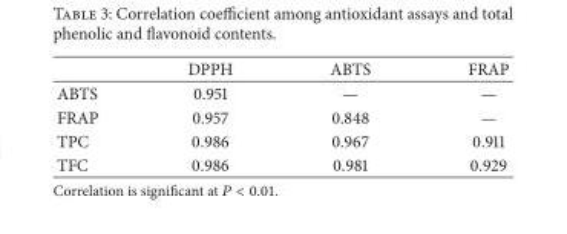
<table><thead><tr><td></td><td>DPPH</td><td>ABTS</td><td>FRAP</td></tr></thead><tbody><tr><td>ABTS</td><td>0.951</td><td>—</td><td>—</td></tr><tr><td>FRAP</td><td>0.957</td><td>0.848</td><td>—</td></tr><tr><td>TPC</td><td>0.986</td><td>0.967</td><td>0.911</td></tr><tr><td>TFC</td><td>0.986</td><td>0.981</td><td>0.929</td></tr></tbody></table>